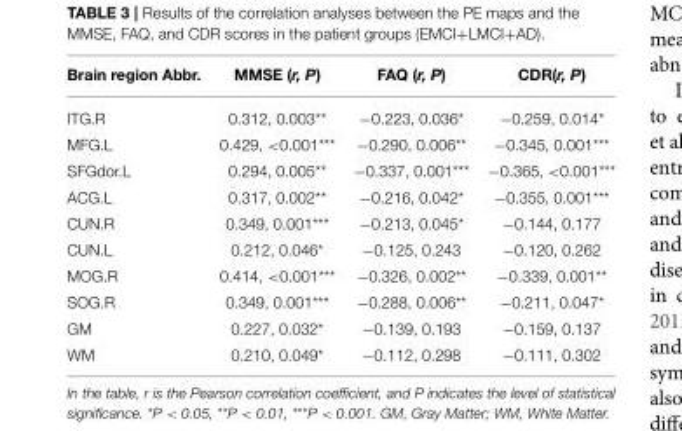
<table><thead><tr><td>Brain region Abbr.</td><td>MMSE (r, P)</td><td>FAQ (r, P)</td><td>CDR(r, P)</td></tr></thead><tbody><tr><td>ITG.R</td><td>0.312, 0.003**</td><td>−0.223, 0.036*</td><td>−0.259, 0.014*</td></tr><tr><td>MFG.L</td><td>0.429, &lt;0.001***</td><td>−0.290, 0.006**</td><td>−0.345, 0.001***</td></tr><tr><td>SFGdor.L</td><td>0.294, 0.005**</td><td>−0.337, 0.001***</td><td>−0.365, &lt;0.001***</td></tr><tr><td>ACG.L</td><td>0.317, 0.002**</td><td>−0.216, 0.042*</td><td>−0.355, 0.001***</td></tr><tr><td>CUN.R</td><td>0.349, 0.001***</td><td>−0.213, 0.045*</td><td>−0.144, 0.177</td></tr><tr><td>CUN.L</td><td>0.212, 0.046*</td><td>−0.125, 0.243</td><td>−0.120, 0.262</td></tr><tr><td>MOG.R</td><td>0.414, &lt;0.001***</td><td>−0.326, 0.002**</td><td>−0.339, 0.001**</td></tr><tr><td>SOG.R</td><td>0.349, 0.001***</td><td>−0.288, 0.006**</td><td>−0.211, 0.047*</td></tr><tr><td>GM</td><td>0.227, 0.032*</td><td>−0.139, 0.193</td><td>−0.159, 0.137</td></tr><tr><td>WM</td><td>0.210, 0.049*</td><td>−0.112, 0.298</td><td>−0.111, 0.302</td></tr></tbody></table>